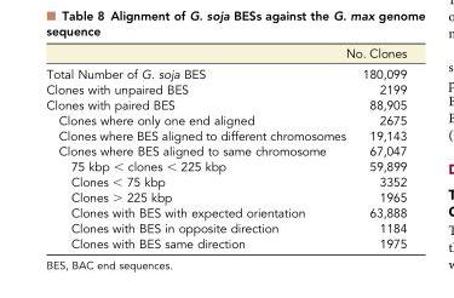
<table><thead><tr><td></td><td>No. Clones</td></tr></thead><tbody><tr><td>Total Number of G. soja BES</td><td>180,099</td></tr><tr><td>Clones with unpaired BES</td><td>2199</td></tr><tr><td>Clones with paired BES</td><td>88,905</td></tr><tr><td>Clones where only one end aligned</td><td>2675</td></tr><tr><td>Clones where BES aligned to different chromosomes</td><td>19,143</td></tr><tr><td>Clones where BES aligned to same chromosome</td><td>67,047</td></tr><tr><td>75 kbp &lt; clones &lt; 225 kbp</td><td>59,899</td></tr><tr><td>Clones &lt; 75 kbp</td><td>3352</td></tr><tr><td>Clones &gt; 225 kbp</td><td>1965</td></tr><tr><td>Clones with BES with expected orientation</td><td>63,888</td></tr><tr><td>Clones with BES in opposite direction</td><td>1184</td></tr><tr><td>Clones with BES same direction</td><td>1975</td></tr></tbody></table>